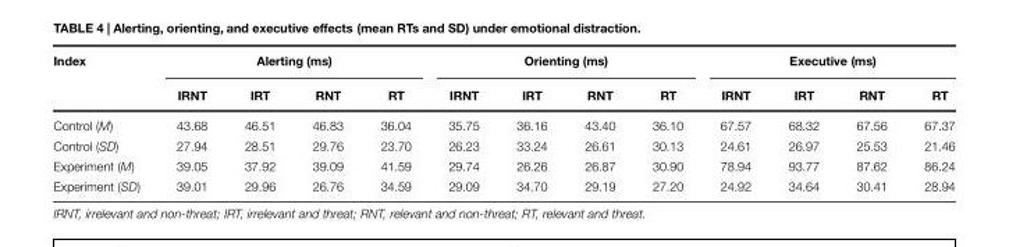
<table><thead><tr><td rowspan="2">Index</td><td colspan="4">Alerting (ms)</td><td colspan="4">Orienting (ms)</td><td colspan="4">Executive (ms)</td></tr><tr><td>IRNT</td><td>IRT</td><td>RNT</td><td>RT</td><td>IRNT</td><td>IRT</td><td>RNT</td><td>RT</td><td>IRNT</td><td>IRT</td><td>RNT</td><td>RT</td></tr></thead><tbody><tr><td>Control (M)</td><td>43.68</td><td>46.51</td><td>46.83</td><td>36.04</td><td>35.75</td><td>36.16</td><td>43.40</td><td>36.10</td><td>67.57</td><td>68.32</td><td>67.56</td><td>67.37</td></tr><tr><td>Control (SD)</td><td>27.94</td><td>28.51</td><td>29.76</td><td>23.70</td><td>26.23</td><td>33.24</td><td>26.61</td><td>30.13</td><td>24.61</td><td>26.97</td><td>25.53</td><td>21.46</td></tr><tr><td>Experiment (M)</td><td>39.05</td><td>37.92</td><td>39.09</td><td>41.59</td><td>29.74</td><td>26.26</td><td>26.87</td><td>30.90</td><td>78.94</td><td>93.77</td><td>87.62</td><td>86.24</td></tr><tr><td>Experiment (SD)</td><td>39.01</td><td>29.96</td><td>26.76</td><td>34.59</td><td>29.09</td><td>34.70</td><td>29.19</td><td>27.20</td><td>24.92</td><td>34.64</td><td>30.41</td><td>28.94</td></tr></tbody></table>